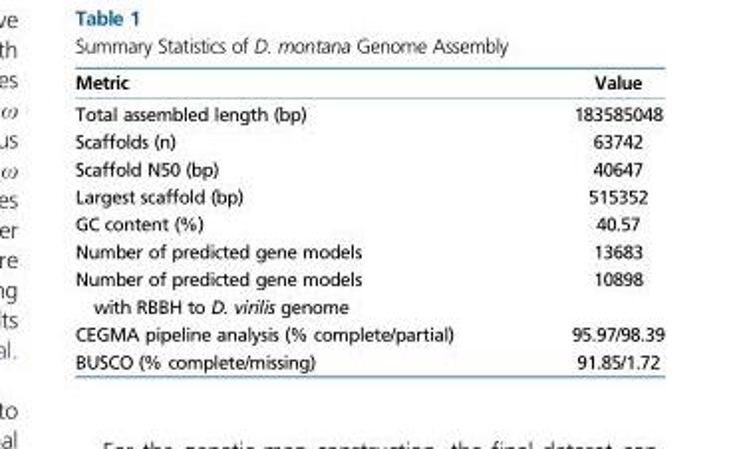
<table><thead><tr><td>Metric</td><td>Value</td></tr></thead><tbody><tr><td>Total assembled length (bp)</td><td>183585048</td></tr><tr><td>Scaffolds (n)</td><td>63742</td></tr><tr><td>Scaffold N50 (bp)</td><td>40647</td></tr><tr><td>Largest scaffold (bp)</td><td>515352</td></tr><tr><td>GC content (%)</td><td>40.57</td></tr><tr><td>Number of predicted gene models</td><td>13683</td></tr><tr><td>Number of predicted gene models with RBBH to D. virilis genome</td><td>10898</td></tr><tr><td>CEGMA pipeline analysis (% complete/partial)</td><td>95.97/98.39</td></tr><tr><td>BUSCO (% complete/missing)</td><td>91.85/1.72</td></tr></tbody></table>